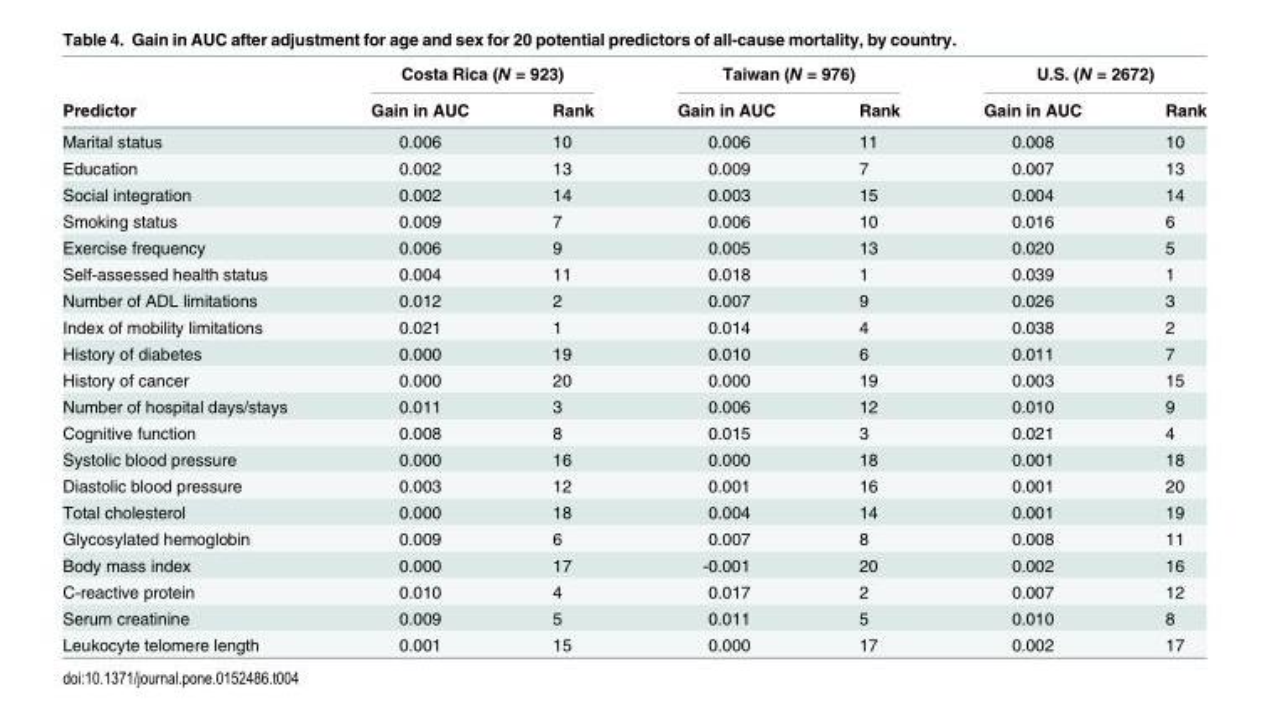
<table><thead><tr><td rowspan="2">Predictor</td><td colspan="2">Costa Rica (N = 923)</td><td colspan="2">Taiwan (N = 976)</td><td colspan="2">U.S. (N = 2672)</td></tr><tr><td>Gain in AUC</td><td>Rank</td><td>Gain in AUC</td><td>Rank</td><td>Gain in AUC</td><td>Rank</td></tr></thead><tbody><tr><td>Marital status</td><td>0.006</td><td>10</td><td>0.006</td><td>11</td><td>0.008</td><td>10</td></tr><tr><td>Education</td><td>0.002</td><td>13</td><td>0.009</td><td>7</td><td>0.007</td><td>13</td></tr><tr><td>Social integration</td><td>0.002</td><td>14</td><td>0.003</td><td>15</td><td>0.004</td><td>14</td></tr><tr><td>Smoking status</td><td>0.009</td><td>7</td><td>0.006</td><td>10</td><td>0.016</td><td>6</td></tr><tr><td>Exercise frequency</td><td>0.006</td><td>9</td><td>0.005</td><td>13</td><td>0.020</td><td>5</td></tr><tr><td>Self-assessed health status</td><td>0.004</td><td>11</td><td>0.018</td><td>1</td><td>0.039</td><td>1</td></tr><tr><td>Number of ADL limitations</td><td>0.012</td><td>2</td><td>0.007</td><td>9</td><td>0.026</td><td>3</td></tr><tr><td>Index of mobility limitations</td><td>0.021</td><td>1</td><td>0.014</td><td>4</td><td>0.038</td><td>2</td></tr><tr><td>History of diabetes</td><td>0.000</td><td>19</td><td>0.010</td><td>6</td><td>0.011</td><td>7</td></tr><tr><td>History of cancer</td><td>0.000</td><td>20</td><td>0.000</td><td>19</td><td>0.003</td><td>15</td></tr><tr><td>Number of hospital days/stays</td><td>0.011</td><td>3</td><td>0.006</td><td>12</td><td>0.010</td><td>9</td></tr><tr><td>Cognitive function</td><td>0.008</td><td>8</td><td>0.015</td><td>3</td><td>0.021</td><td>4</td></tr><tr><td>Systolic blood pressure</td><td>0.000</td><td>16</td><td>0.000</td><td>18</td><td>0.001</td><td>18</td></tr><tr><td>Diastolic blood pressure</td><td>0.003</td><td>12</td><td>0.001</td><td>16</td><td>0.001</td><td>20</td></tr><tr><td>Total cholesterol</td><td>0.000</td><td>18</td><td>0.004</td><td>14</td><td>0.001</td><td>19</td></tr><tr><td>Glycosylated hemoglobin</td><td>0.009</td><td>6</td><td>0.007</td><td>8</td><td>0.008</td><td>11</td></tr><tr><td>Body mass index</td><td>0.000</td><td>17</td><td>-0.001</td><td>20</td><td>0.002</td><td>16</td></tr><tr><td>C-reactive protein</td><td>0.010</td><td>4</td><td>0.017</td><td>2</td><td>0.007</td><td>12</td></tr><tr><td>Serum creatinine</td><td>0.009</td><td>5</td><td>0.011</td><td>5</td><td>0.010</td><td>8</td></tr><tr><td>Leukocyte telomere length</td><td>0.001</td><td>15</td><td>0.000</td><td>17</td><td>0.002</td><td>17</td></tr></tbody></table>